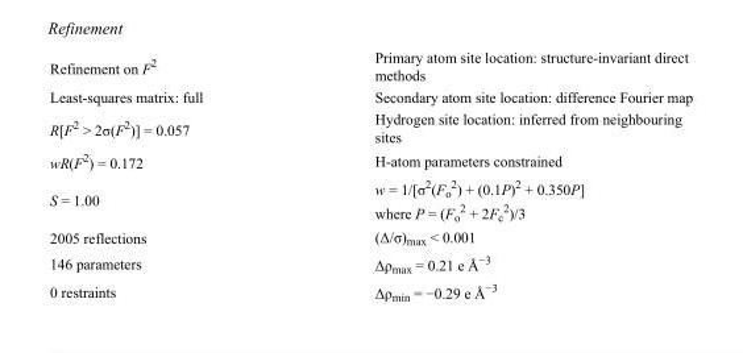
<table><tbody><tr><td>Refinement on F<sup>2</sup></td><td>Primary atom site location: structure-invariant direct methods</td></tr><tr><td>Least-squares matrix: full</td><td>Secondary atom site location: difference Fourier map</td></tr><tr><td>R[F<sup>2</sup> &gt; 2σ(F<sup>2</sup>)] = 0.057</td><td>Hydrogen site location: inferred from neighbouring sites</td></tr><tr><td>wR(F<sup>2</sup>) = 0.172</td><td>H-atom parameters constrained</td></tr><tr><td>S = 1.00</td><td>w = 1/[σ<sup>2</sup>(F<sub>o</sub> <sup>2</sup>) + (0.1P)<sup>2</sup> + 0.350P] where P = (F<sub>o</sub> <sup>2</sup> + 2F<sub>c</sub> <sup>2</sup>)/3</td></tr><tr><td>2005 reflections</td><td>(Δ/σ)<sub>max</sub> &lt; 0.001</td></tr><tr><td>146 parameters</td><td>Δρ<sub>max</sub> = 0.21 e Å<sup>−3</sup></td></tr><tr><td>0 restraints</td><td>Δρ<sub>min</sub> = −0.29 e Å<sup>−3</sup></td></tr></tbody></table>